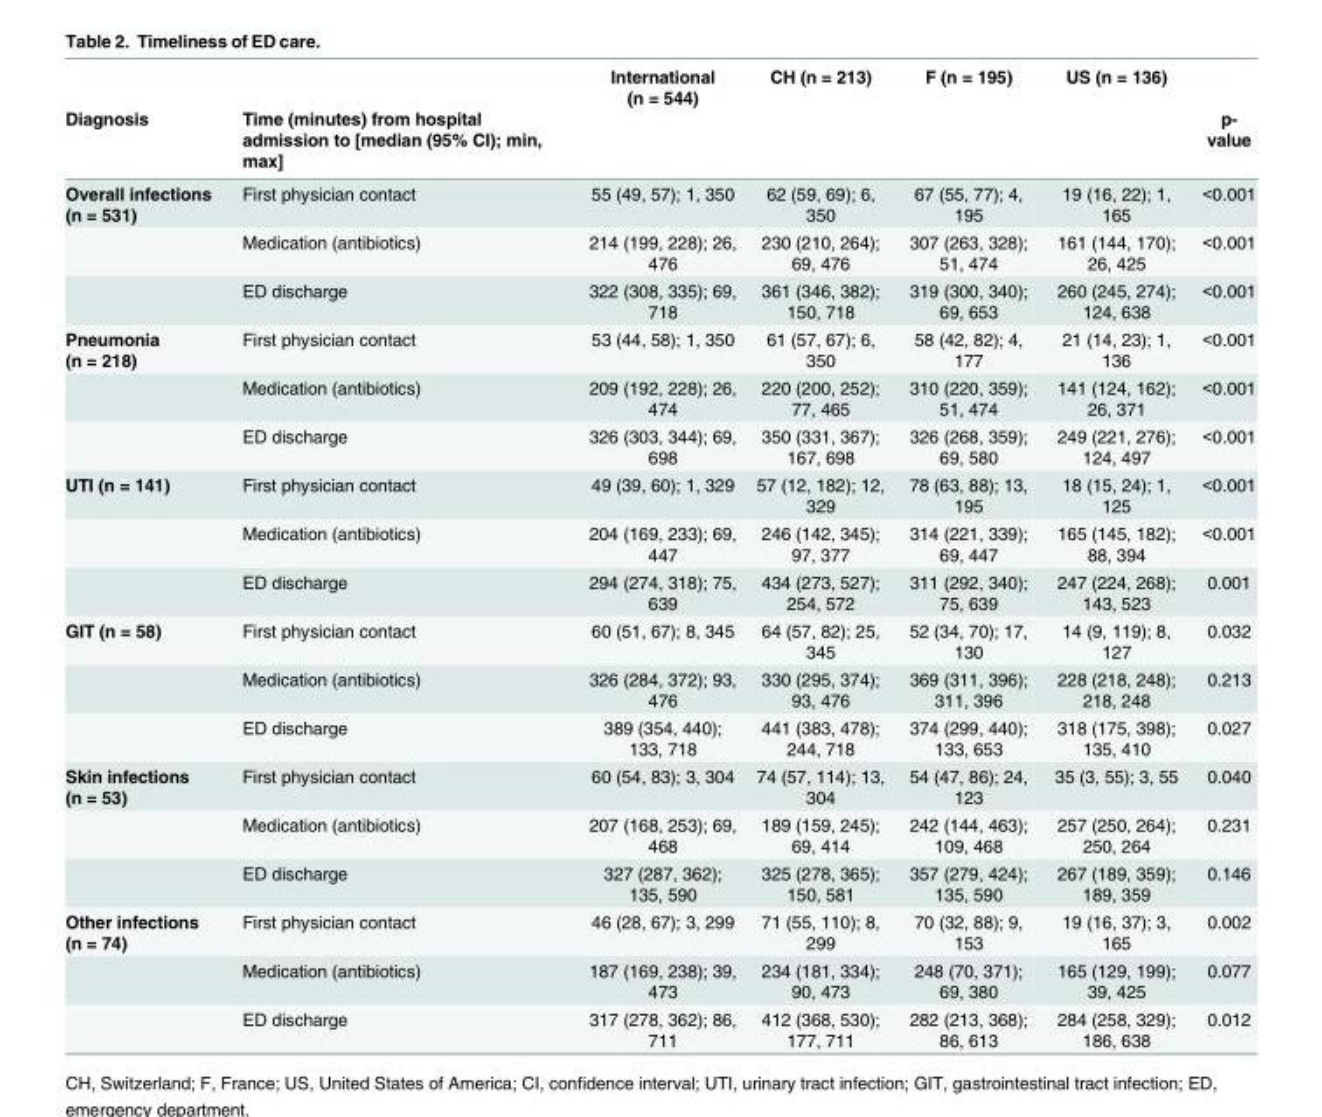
<table><thead><tr><td rowspan="2">Diagnosis</td><td rowspan="2">Time (minutes) from hospital admission to [median (95% CI); min, max]</td><td rowspan="2">International (n = 544)</td><td rowspan="2">CH (n = 213)</td><td rowspan="2">F (n = 195)</td><td rowspan="2">US (n = 136)</td><td rowspan="2">p- value</td></tr><tr></tr></thead><tbody><tr><td rowspan="3">Overall infections (n = 531)</td><td>First physician contact</td><td>55 (49, 57); 1, 350</td><td>62 (59, 69); 6, 350</td><td>67 (55, 77); 4, 195</td><td>19 (16, 22); 1, 165</td><td>&lt;0.001</td></tr><tr><td>Medication (antibiotics)</td><td>214 (199, 228); 26, 476</td><td>230 (210, 264); 69, 476</td><td>307 (263, 328); 51, 474</td><td>161 (144, 170); 26, 425</td><td>&lt;0.001</td></tr><tr><td>ED discharge</td><td>322 (308, 335); 69, 718</td><td>361 (346, 382); 150, 718</td><td>319 (300, 340); 69, 653</td><td>260 (245, 274); 124, 638</td><td>&lt;0.001</td></tr><tr><td rowspan="3">Pneumonia (n = 218)</td><td>First physician contact</td><td>53 (44, 58); 1, 350</td><td>61 (57, 67); 6, 350</td><td>58 (42, 82); 4, 177</td><td>21 (14, 23); 1, 136</td><td>&lt;0.001</td></tr><tr><td>Medication (antibiotics)</td><td>209 (192, 228); 26, 474</td><td>220 (200, 252); 77, 465</td><td>310 (220, 359); 51, 474</td><td>141 (124, 162); 26, 371</td><td>&lt;0.001</td></tr><tr><td>ED discharge</td><td>326 (303, 344); 69, 698</td><td>350 (331, 367); 167, 698</td><td>326 (268, 359); 69, 580</td><td>249 (221, 276); 124, 497</td><td>&lt;0.001</td></tr><tr><td rowspan="3">UTI (n = 141)</td><td>First physician contact</td><td>49 (39, 60); 1, 329</td><td>57 (12, 182); 12, 329</td><td>78 (63, 88); 13, 195</td><td>18 (15, 24); 1, 125</td><td>&lt;0.001</td></tr><tr><td>Medication (antibiotics)</td><td>204 (169, 233); 69, 447</td><td>246 (142, 345); 97, 377</td><td>314 (221, 339); 69, 447</td><td>165 (145, 182); 88, 394</td><td>&lt;0.001</td></tr><tr><td>ED discharge</td><td>294 (274, 318); 75, 639</td><td>434 (273, 527); 254, 572</td><td>311 (292, 340); 75, 639</td><td>247 (224, 268); 143, 523</td><td>0.001</td></tr><tr><td rowspan="3">GIT (n = 58)</td><td>First physician contact</td><td>60 (51, 67); 8, 345</td><td>64 (57, 82); 25, 345</td><td>52 (34, 70); 17, 130</td><td>14 (9, 119); 8, 127</td><td>0.032</td></tr><tr><td>Medication (antibiotics)</td><td>326 (284, 372); 93, 476</td><td>330 (295, 374); 93, 476</td><td>369 (311, 396); 311, 396</td><td>228 (218, 248); 218, 248</td><td>0.213</td></tr><tr><td>ED discharge</td><td>389 (354, 440); 133, 718</td><td>441 (383, 478); 244, 718</td><td>374 (299, 440); 133, 653</td><td>318 (175, 398); 135, 410</td><td>0.027</td></tr><tr><td rowspan="3">Skin infections (n = 53)</td><td>First physician contact</td><td>60 (54, 83); 3, 304</td><td>74 (57, 114); 13, 304</td><td>54 (47, 86); 24, 123</td><td>35 (3, 55); 3, 55</td><td>0.040</td></tr><tr><td>Medication (antibiotics)</td><td>207 (168, 253); 69, 468</td><td>189 (159, 245); 69, 414</td><td>242 (144, 463); 109, 468</td><td>257 (250, 264); 250, 264</td><td>0.231</td></tr><tr><td>ED discharge</td><td>327 (287, 362); 135, 590</td><td>325 (278, 365); 150, 581</td><td>357 (279, 424); 135, 590</td><td>267 (189, 359); 189, 359</td><td>0.146</td></tr><tr><td rowspan="3">Other infections (n = 74)</td><td>First physician contact</td><td>46 (28, 67); 3, 299</td><td>71 (55, 110); 8, 299</td><td>70 (32, 88); 9, 153</td><td>19 (16, 37); 3, 165</td><td>0.002</td></tr><tr><td>Medication (antibiotics)</td><td>187 (169, 238); 39, 473</td><td>234 (181, 334); 90, 473</td><td>248 (70, 371); 69, 380</td><td>165 (129, 199); 39, 425</td><td>0.077</td></tr><tr><td>ED discharge</td><td>317 (278, 362); 86, 711</td><td>412 (368, 530); 177, 711</td><td>282 (213, 368); 86, 613</td><td>284 (258, 329); 186, 638</td><td>0.012</td></tr></tbody></table>